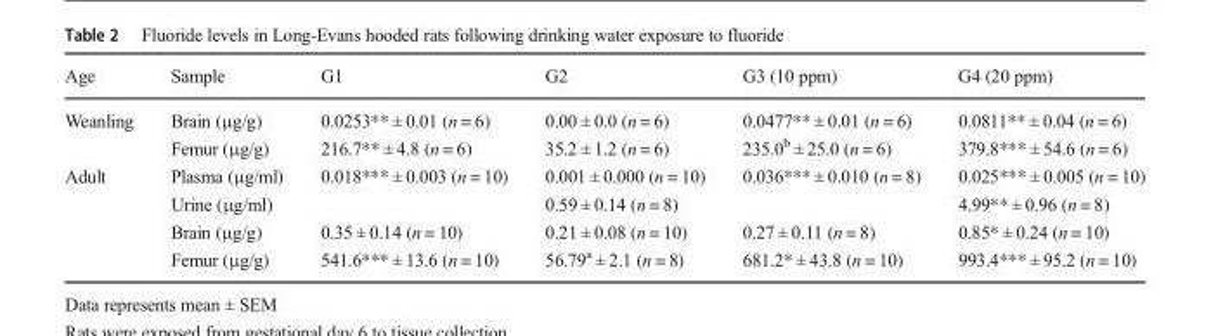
<table><thead><tr><td>Age</td><td>Sample</td><td>G1</td><td>G2</td><td>G3 (10 ppm)</td><td>G4 (20 ppm)</td></tr></thead><tbody><tr><td rowspan="2">Weanling</td><td>Brain (μg/g)</td><td>0.0253** ± 0.01 (n = 6)</td><td>0.00 ± 0.0 (n = 6)</td><td>0.0477** ± 0.01 (n = 6)</td><td>0.0811** ± 0.04 (n = 6)</td></tr><tr><td>Femur (μg/g)</td><td>216.7** ± 4.8 (n = 6)</td><td>35.2 ± 1.2 (n = 6)</td><td>235.0<sup>b</sup> ± 25.0 (n = 6)</td><td>379.8*** ± 54.6 (n = 6)</td></tr><tr><td rowspan="4">Adult</td><td>Plasma (μg/ml)</td><td>0.018*** ± 0.003 (n = 10)</td><td>0.001 ± 0.000 (n = 10)</td><td>0.036*** ± 0.010 (n = 8)</td><td>0.025*** ± 0.005 (n = 10)</td></tr><tr><td>Urine (μg/ml)</td><td></td><td>0.59 ± 0.14 (n = 8)</td><td></td><td>4.99** ± 0.96 (n = 8)</td></tr><tr><td>Brain (μg/g)</td><td>0.35 ± 0.14 (n = 10)</td><td>0.21 ± 0.08 (n = 10)</td><td>0.27 ± 0.11 (n = 8)</td><td>0.85* ± 0.24 (n = 10)</td></tr><tr><td>Femur (μg/g)</td><td>541.6*** ± 13.6 (n = 10)</td><td>56.79<sup>a</sup> ± 2.1 (n = 8)</td><td>681.2* ± 43.8 (n = 10)</td><td>993.4*** ± 95.2 (n = 10)</td></tr></tbody></table>